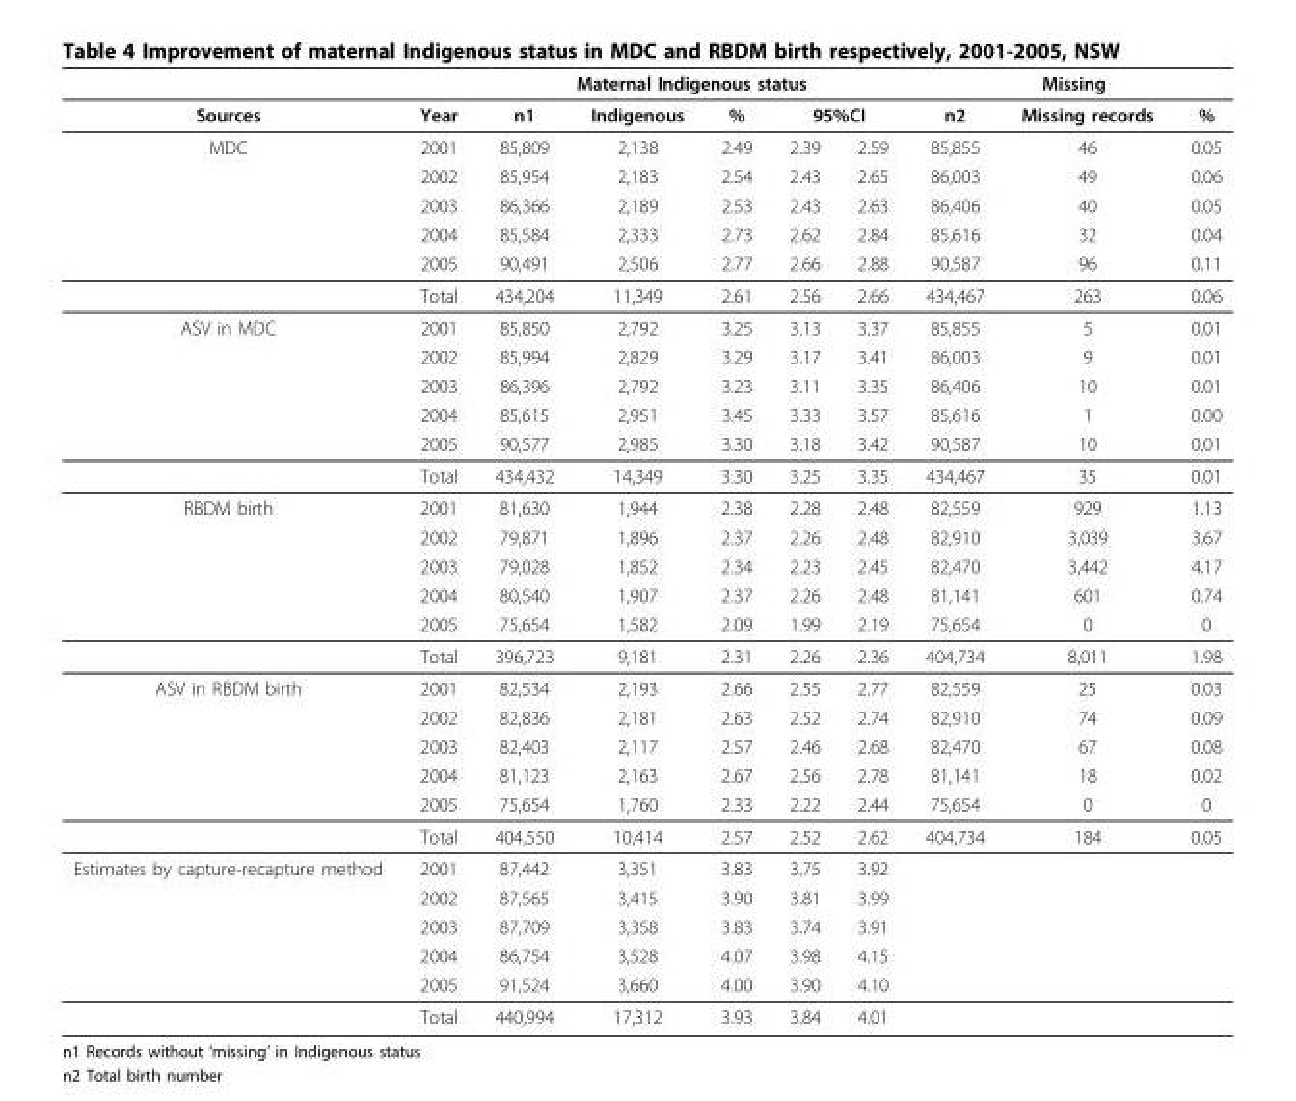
<table><thead><tr><td rowspan="3">Sources MDC</td><td rowspan="3">Year 2001</td><td colspan="5">Maternal Indigenous status</td><td colspan="3">Missing</td></tr><tr><td rowspan="2">n1 85,809</td><td rowspan="2">Indigenous 2,138</td><td rowspan="2">% 2.49</td><td colspan="2">95%CI</td><td rowspan="2">n2 85,855</td><td rowspan="2">Missing records 46</td><td rowspan="2">% 0.05</td></tr><tr><td>2.39</td><td>2.59</td></tr></thead><tbody><tr><td></td><td>2002</td><td>85,954</td><td>2,183</td><td>2.54</td><td>2.43</td><td>2.65</td><td>86,003</td><td>49</td><td>0.06</td></tr><tr><td></td><td>2003</td><td>86,366</td><td>2,189</td><td>2.53</td><td>2.43</td><td>2.63</td><td>86,406</td><td>40</td><td>0.05</td></tr><tr><td></td><td>2004</td><td>85,584</td><td>2,333</td><td>2.73</td><td>2.62</td><td>2.84</td><td>85,616</td><td>32</td><td>0.04</td></tr><tr><td></td><td>2005</td><td>90,491</td><td>2,506</td><td>2.77</td><td>2.66</td><td>2.88</td><td>90,587</td><td>96</td><td>0.11</td></tr><tr><td></td><td>Total</td><td>434,204</td><td>11,349</td><td>2.61</td><td>2.56</td><td>2.66</td><td>434,467</td><td>263</td><td>0.06</td></tr><tr><td rowspan="6">ASV in MDC</td><td>2001</td><td>85,850</td><td>2,792</td><td>3.25</td><td>3.13</td><td>3.37</td><td>85,855</td><td>5</td><td>0.01</td></tr><tr><td>2002</td><td>85,994</td><td>2,829</td><td>3.29</td><td>3.17</td><td>3.41</td><td>86,003</td><td>9</td><td>0.01</td></tr><tr><td>2003</td><td>86,396</td><td>2,792</td><td>3.23</td><td>3.11</td><td>3.35</td><td>86,406</td><td>10</td><td>0.01</td></tr><tr><td>2004</td><td>85,615</td><td>2,951</td><td>3.45</td><td>3.33</td><td>3.57</td><td>85,616</td><td>1</td><td>0.00</td></tr><tr><td>2005</td><td>90,577</td><td>2,985</td><td>3.30</td><td>3.18</td><td>3.42</td><td>90,587</td><td>10</td><td>0.01</td></tr><tr><td>Total</td><td>434,432</td><td>14,349</td><td>3.30</td><td>3.25</td><td>3.35</td><td>434,467</td><td>35</td><td>0.01</td></tr><tr><td rowspan="6">RBDM birth</td><td>2001</td><td>81,630</td><td>1,944</td><td>2.38</td><td>2.28</td><td>2.48</td><td>82,559</td><td>929</td><td>1.13</td></tr><tr><td>2002</td><td>79,871</td><td>1,896</td><td>2.37</td><td>2.26</td><td>2.48</td><td>82,910</td><td>3,039</td><td>3.67</td></tr><tr><td>2003</td><td>79,028</td><td>1,852</td><td>2.34</td><td>2.23</td><td>2.45</td><td>82,470</td><td>3,442</td><td>4.17</td></tr><tr><td>2004</td><td>80,540</td><td>1,907</td><td>2.37</td><td>2.26</td><td>2.48</td><td>81,141</td><td>601</td><td>0.74</td></tr><tr><td>2005</td><td>75,654</td><td>1,582</td><td>2.09</td><td>1.99</td><td>2.19</td><td>75,654</td><td>0</td><td>0</td></tr><tr><td>Total</td><td>396,723</td><td>9,181</td><td>2.31</td><td>2.26</td><td>2.36</td><td>404,734</td><td>8,011</td><td>1.98</td></tr><tr><td rowspan="6">ASV in RBDM birth</td><td>2001</td><td>82,534</td><td>2,193</td><td>2.66</td><td>2.55</td><td>2.77</td><td>82,559</td><td>25</td><td>0.03</td></tr><tr><td>2002</td><td>82,836</td><td>2,181</td><td>2.63</td><td>2.52</td><td>2.74</td><td>82,910</td><td>74</td><td>0.09</td></tr><tr><td>2003</td><td>82,403</td><td>2,117</td><td>2.57</td><td>2.46</td><td>2.68</td><td>82,470</td><td>67</td><td>0.08</td></tr><tr><td>2004</td><td>81,123</td><td>2,163</td><td>2.67</td><td>2.56</td><td>2.78</td><td>81,141</td><td>18</td><td>0.02</td></tr><tr><td>2005</td><td>75,654</td><td>1,760</td><td>2.33</td><td>2.22</td><td>2.44</td><td>75,654</td><td>0</td><td>0</td></tr><tr><td>Total</td><td>404,550</td><td>10,414</td><td>2.57</td><td>2.52</td><td>2.62</td><td>404,734</td><td>184</td><td>0.05</td></tr><tr><td rowspan="6">Estimates by capture-recapture method</td><td>2001</td><td>87,442</td><td>3,351</td><td>3.83</td><td>3.75</td><td>3.92</td><td></td><td></td><td></td></tr><tr><td>2002</td><td>87,565</td><td>3,415</td><td>3.90</td><td>3.81</td><td>3.99</td><td></td><td></td><td></td></tr><tr><td>2003</td><td>87,709</td><td>3,358</td><td>3.83</td><td>3.74</td><td>3.91</td><td></td><td></td><td></td></tr><tr><td>2004</td><td>86,754</td><td>3,528</td><td>4.07</td><td>3.98</td><td>4.15</td><td></td><td></td><td></td></tr><tr><td>2005</td><td>91,524</td><td>3,660</td><td>4.00</td><td>3.90</td><td>4.10</td><td></td><td></td><td></td></tr><tr><td>Total</td><td>440,994</td><td>17,312</td><td>3.93</td><td>3.84</td><td>4.01</td><td></td><td></td><td></td></tr></tbody></table>